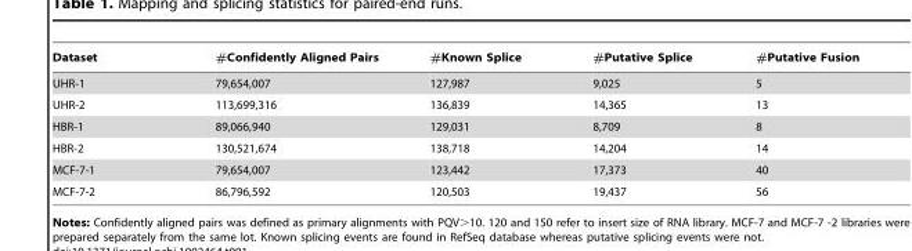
<table><thead><tr><td>Dataset</td><td>#Confidently Aligned Pairs</td><td>#Known Splice</td><td>#Putative Splice</td><td>#Putative Fusion</td></tr></thead><tbody><tr><td>UHR-1</td><td>79,654,007</td><td>127,987</td><td>9,025</td><td>5</td></tr><tr><td>UHR-2</td><td>113,699,316</td><td>136,839</td><td>14,365</td><td>13</td></tr><tr><td>HBR-1</td><td>89,066,940</td><td>129,031</td><td>8,709</td><td>8</td></tr><tr><td>HBR-2</td><td>130,521,674</td><td>138,718</td><td>14,204</td><td>14</td></tr><tr><td>MCF-7-1</td><td>79,654,007</td><td>123,442</td><td>17,373</td><td>40</td></tr><tr><td>MCF-7-2</td><td>86,796,592</td><td>120,503</td><td>19,437</td><td>56</td></tr></tbody></table>